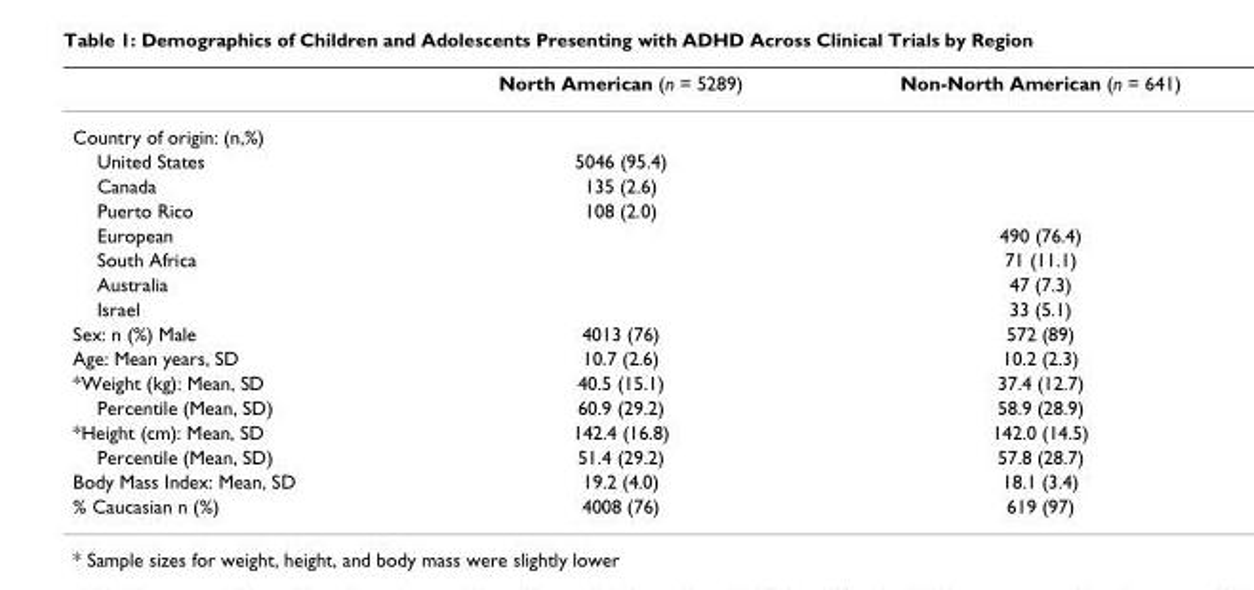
<table><thead><tr><td></td><td>North American (n = 5289)</td><td>Non-North American (n = 641)</td></tr></thead><tbody><tr><td colspan="3">Country of origin: (n,%)</td></tr><tr><td>United States</td><td>5046 (95.4)</td><td></td></tr><tr><td>Canada</td><td>135 (2.6)</td><td></td></tr><tr><td>Puerto Rico</td><td>108 (2.0)</td><td></td></tr><tr><td>European</td><td></td><td>490 (76.4)</td></tr><tr><td>South Africa</td><td></td><td>71 (11.1)</td></tr><tr><td>Australia</td><td></td><td>47 (7.3)</td></tr><tr><td>Israel</td><td></td><td>33 (5.1)</td></tr><tr><td>Sex: n (%) Male</td><td>4013 (76)</td><td>572 (89)</td></tr><tr><td>Age: Mean years, SD</td><td>10.7 (2.6)</td><td>10.2 (2.3)</td></tr><tr><td>*Weight (kg): Mean, SD</td><td>40.5 (15.1)</td><td>37.4 (12.7)</td></tr><tr><td>Percentile (Mean, SD)</td><td>60.9 (29.2)</td><td>58.9 (28.9)</td></tr><tr><td>*Height (cm): Mean, SD</td><td>142.4 (16.8)</td><td>142.0 (14.5)</td></tr><tr><td>Percentile (Mean, SD)</td><td>51.4 (29.2)</td><td>57.8 (28.7)</td></tr><tr><td>Body Mass Index: Mean, SD</td><td>19.2 (4.0)</td><td>18.1 (3.4)</td></tr><tr><td>% Caucasian n (%)</td><td>4008 (76)</td><td>619 (97)</td></tr></tbody></table>